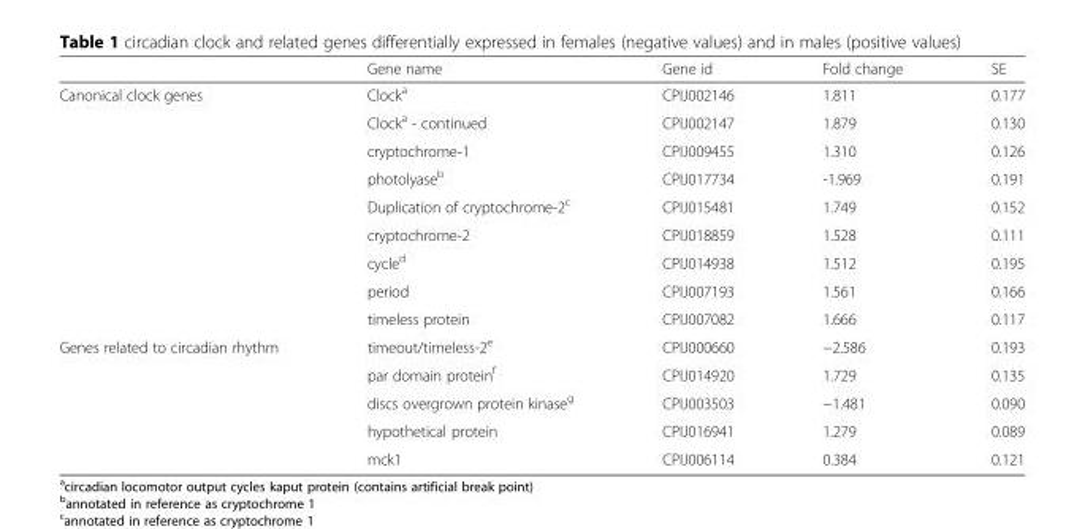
<table><thead><tr><td></td><td>Gene name</td><td>Gene id</td><td>Fold change</td><td>SE</td></tr></thead><tbody><tr><td rowspan="9">Canonical clock genes</td><td>Clock<sup>a</sup></td><td>CPIJ002146</td><td>1.811</td><td>0.177</td></tr><tr><td>Clock<sup>a</sup> - continued</td><td>CPIJ002147</td><td>1.879</td><td>0.130</td></tr><tr><td>cryptochrome-1</td><td>CPIJ009455</td><td>1.310</td><td>0.126</td></tr><tr><td>photolyase<sup>b</sup></td><td>CPIJ017734</td><td>-1.969</td><td>0.191</td></tr><tr><td>Duplication of cryptochrome-2<sup>c</sup></td><td>CPIJ015481</td><td>1.749</td><td>0.152</td></tr><tr><td>cryptochrome-2</td><td>CPIJ018859</td><td>1.528</td><td>0.111</td></tr><tr><td>cycle<sup>d</sup></td><td>CPIJ014938</td><td>1.512</td><td>0.195</td></tr><tr><td>period</td><td>CPIJ007193</td><td>1.561</td><td>0.166</td></tr><tr><td>timeless protein</td><td>CPIJ007082</td><td>1.666</td><td>0.117</td></tr><tr><td rowspan="5">Genes related to circadian rhythm</td><td>timeout/timeless-2<sup>e</sup></td><td>CPIJ000660</td><td>−2.586</td><td>0.193</td></tr><tr><td>par domain protein<sup>f</sup></td><td>CPIJ014920</td><td>1.729</td><td>0.135</td></tr><tr><td>discs overgrown protein kinase<sup>g</sup></td><td>CPIJ003503</td><td>−1.481</td><td>0.090</td></tr><tr><td>hypothetical protein</td><td>CPIJ016941</td><td>1.279</td><td>0.089</td></tr><tr><td>mck1</td><td>CPIJ006114</td><td>0.384</td><td>0.121</td></tr></tbody></table>